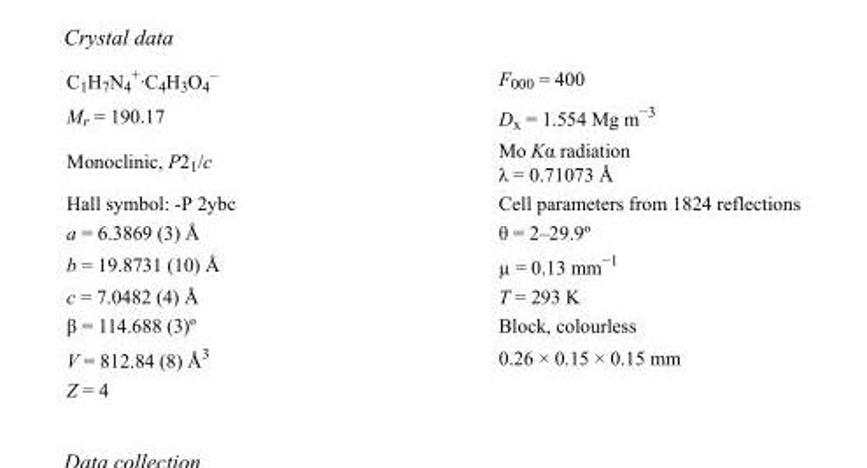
<table><tbody><tr><td>C1H7N4 +·C4H3O4 –</td><td>F000 = 400</td></tr><tr><td>M<sub>r</sub> = 190.17</td><td>D<sub>x</sub> = 1.554 Mg m<sup>−3</sup></td></tr><tr><td>Monoclinic, P2<sub>1</sub>/c</td><td>Mo Kα radiation λ = 0.71073 Å</td></tr><tr><td>Hall symbol: -P 2ybc</td><td>Cell parameters from 1824 reflections</td></tr><tr><td>a = 6.3869 (3) Å</td><td>θ = 2–29.9º</td></tr><tr><td>b = 19.8731 (10) Å</td><td>µ = 0.13 mm<sup>−1</sup></td></tr><tr><td>c = 7.0482 (4) Å</td><td>T = 293 K</td></tr><tr><td>β = 114.688 (3)º</td><td>Block, colourless</td></tr><tr><td>V = 812.84 (8) Å<sup>3</sup></td><td>0.26 × 0.15 × 0.15 mm</td></tr><tr><td>Z = 4</td><td></td></tr></tbody></table>